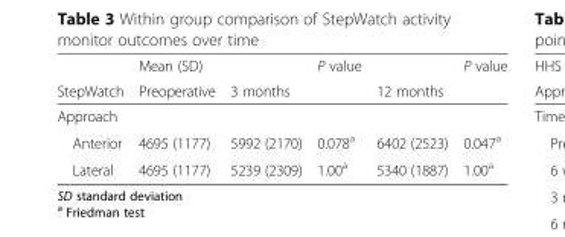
<table><thead><tr><td rowspan="2">StepWatch</td><td rowspan="2">Mean (SD) Preoperative</td><td rowspan="2">3 months</td><td rowspan="2">P value</td><td rowspan="2">12 months</td><td rowspan="2">P value</td></tr><tr></tr></thead><tbody><tr><td colspan="6">Approach</td></tr><tr><td>Anterior</td><td>4695 (1177)</td><td>5992 (2170)</td><td>0.078<sup>a</sup></td><td>6402 (2523)</td><td>0.047<sup>a</sup></td></tr><tr><td>Lateral</td><td>4695 (1177)</td><td>5239 (2309)</td><td>1.00<sup>a</sup></td><td>5340 (1887)</td><td>1.00<sup>a</sup></td></tr></tbody></table>